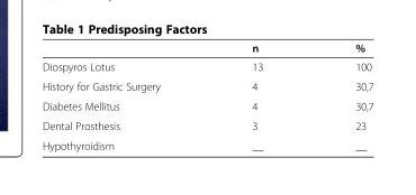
<table><thead><tr><td></td><td>n</td><td>%</td></tr></thead><tbody><tr><td>Diospyros Lotus</td><td>13</td><td>100</td></tr><tr><td>History for Gastric Surgery</td><td>4</td><td>30,7</td></tr><tr><td>Diabetes Mellitus</td><td>4</td><td>30,7</td></tr><tr><td>Dental Prosthesis</td><td>3</td><td>23</td></tr><tr><td>Hypothyroidism</td><td>__</td><td>__</td></tr></tbody></table>